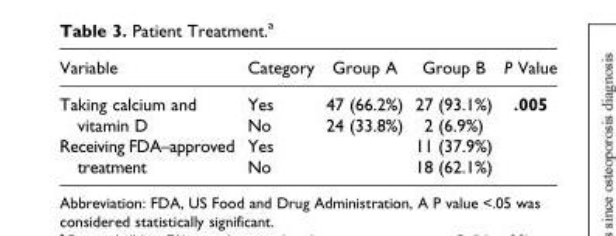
<table><thead><tr><td>Variable</td><td>Category</td><td>Group A</td><td>Group B</td><td>P Value</td></tr></thead><tbody><tr><td rowspan="2">Taking calcium and vitamin D</td><td>Yes</td><td>47 (66.2%)</td><td>27 (93.1%)</td><td rowspan="2">.005</td></tr><tr><td>No</td><td>24 (33.8%)</td><td>2 (6.9%)</td></tr><tr><td rowspan="2">Receiving FDA–approved treatment</td><td>Yes</td><td></td><td>11 (37.9%)</td><td rowspan="2"></td></tr><tr><td>No</td><td></td><td>18 (62.1%)</td></tr></tbody></table>